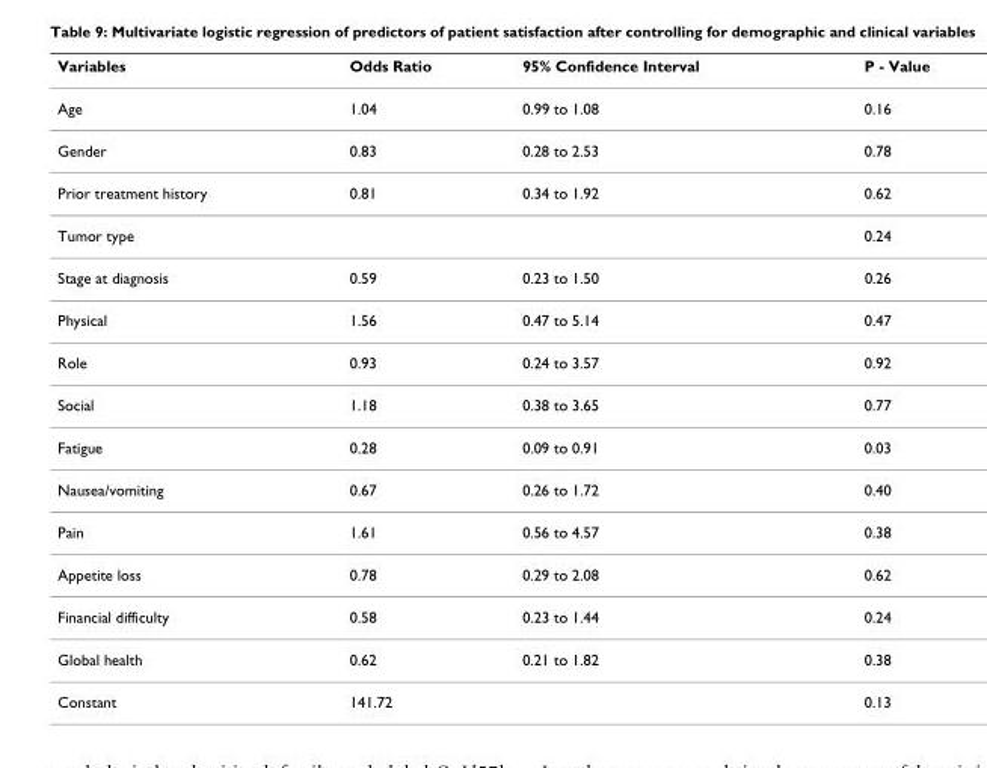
<table><thead><tr><td>Variables</td><td>Odds Ratio</td><td>95% Confidence Interval</td><td>P - Value</td></tr></thead><tbody><tr><td>Age</td><td>1.04</td><td>0.99 to 1.08</td><td>0.16</td></tr><tr><td>Gender</td><td>0.83</td><td>0.28 to 2.53</td><td>0.78</td></tr><tr><td>Prior treatment history</td><td>0.81</td><td>0.34 to 1.92</td><td>0.62</td></tr><tr><td>Tumor type</td><td></td><td></td><td>0.24</td></tr><tr><td>Stage at diagnosis</td><td>0.59</td><td>0.23 to 1.50</td><td>0.26</td></tr><tr><td>Physical</td><td>1.56</td><td>0.47 to 5.14</td><td>0.47</td></tr><tr><td>Role</td><td>0.93</td><td>0.24 to 3.57</td><td>0.92</td></tr><tr><td>Social</td><td>1.18</td><td>0.38 to 3.65</td><td>0.77</td></tr><tr><td>Fatigue</td><td>0.28</td><td>0.09 to 0.91</td><td>0.03</td></tr><tr><td>Nausea/vomiting</td><td>0.67</td><td>0.26 to 1.72</td><td>0.40</td></tr><tr><td>Pain</td><td>1.61</td><td>0.56 to 4.57</td><td>0.38</td></tr><tr><td>Appetite loss</td><td>0.78</td><td>0.29 to 2.08</td><td>0.62</td></tr><tr><td>Financial difficulty</td><td>0.58</td><td>0.23 to 1.44</td><td>0.24</td></tr><tr><td>Global health</td><td>0.62</td><td>0.21 to 1.82</td><td>0.38</td></tr><tr><td>Constant</td><td>141.72</td><td></td><td>0.13</td></tr></tbody></table>